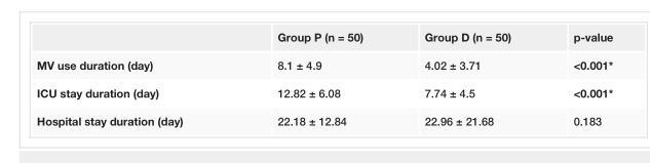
<table><thead><tr><td></td><td>Group P (n = 50)</td><td>Group D (n = 50)</td><td>p-value</td></tr></thead><tbody><tr><td>MV use duration (day)</td><td>8.1 ± 4.9</td><td>4.02 ± 3.71</td><td>&lt;0.001*</td></tr><tr><td>ICU stay duration (day)</td><td>12.82 ± 6.08</td><td>7.74 ± 4.5</td><td>&lt;0.001*</td></tr><tr><td>Hospital stay duration (day)</td><td>22.18 ± 12.84</td><td>22.96 ± 21.68</td><td>0.183</td></tr></tbody></table>